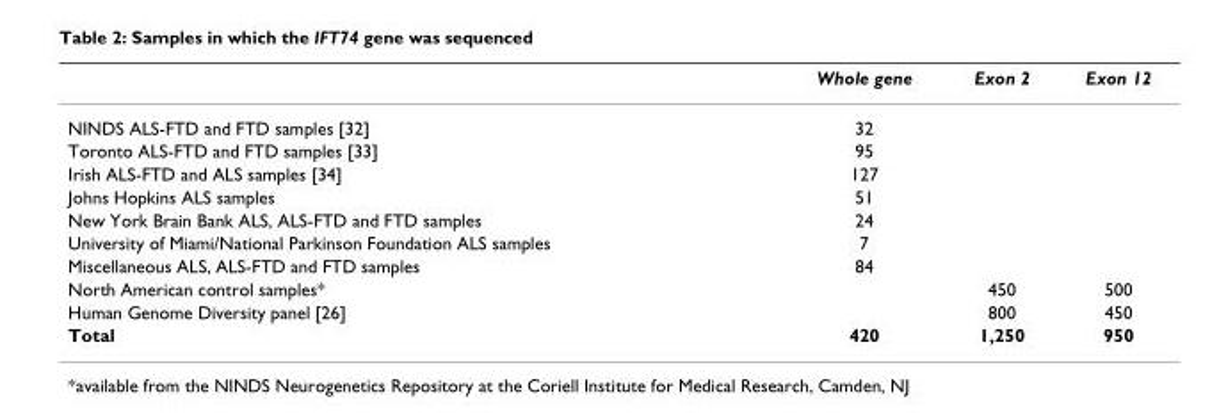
<table><thead><tr><td></td><td>Whole gene</td><td>Exon 2</td><td>Exon 12</td></tr></thead><tbody><tr><td>NINDS ALS-FTD and FTD samples [32]</td><td>32</td><td></td><td></td></tr><tr><td>Toronto ALS-FTD and FTD samples [33]</td><td>95</td><td></td><td></td></tr><tr><td>Irish ALS-FTD and ALS samples [34]</td><td>127</td><td></td><td></td></tr><tr><td>Johns Hopkins ALS samples</td><td>51</td><td></td><td></td></tr><tr><td>New York Brain Bank ALS, ALS-FTD and FTD samples</td><td>24</td><td></td><td></td></tr><tr><td>University of Miami/National Parkinson Foundation ALS samples</td><td>7</td><td></td><td></td></tr><tr><td>Miscellaneous ALS, ALS-FTD and FTD samples</td><td>84</td><td></td><td></td></tr><tr><td>North American control samples*</td><td></td><td>450</td><td>500</td></tr><tr><td>Human Genome Diversity panel [26]</td><td></td><td>800</td><td>450</td></tr><tr><td>Total</td><td>420</td><td>1,250</td><td>950</td></tr></tbody></table>